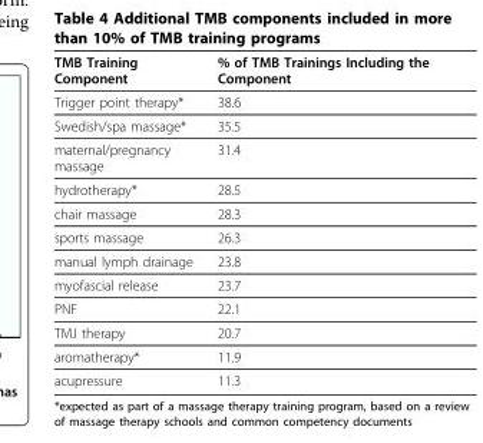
<table><thead><tr><td>TMB Training Component</td><td>% of TMB Trainings Including the Component</td></tr></thead><tbody><tr><td>Trigger point therapy*</td><td>38.6</td></tr><tr><td>Swedish/spa massage*</td><td>35.5</td></tr><tr><td>maternal/pregnancy massage</td><td>31.4</td></tr><tr><td>hydrotherapy*</td><td>28.5</td></tr><tr><td>chair massage</td><td>28.3</td></tr><tr><td>sports massage</td><td>26.3</td></tr><tr><td>manual lymph drainage</td><td>23.8</td></tr><tr><td>myofascial release</td><td>23.7</td></tr><tr><td>PNF</td><td>22.1</td></tr><tr><td>TMJ therapy</td><td>20.7</td></tr><tr><td>aromatherapy*</td><td>11.9</td></tr><tr><td>acupressure</td><td>11.3</td></tr></tbody></table>